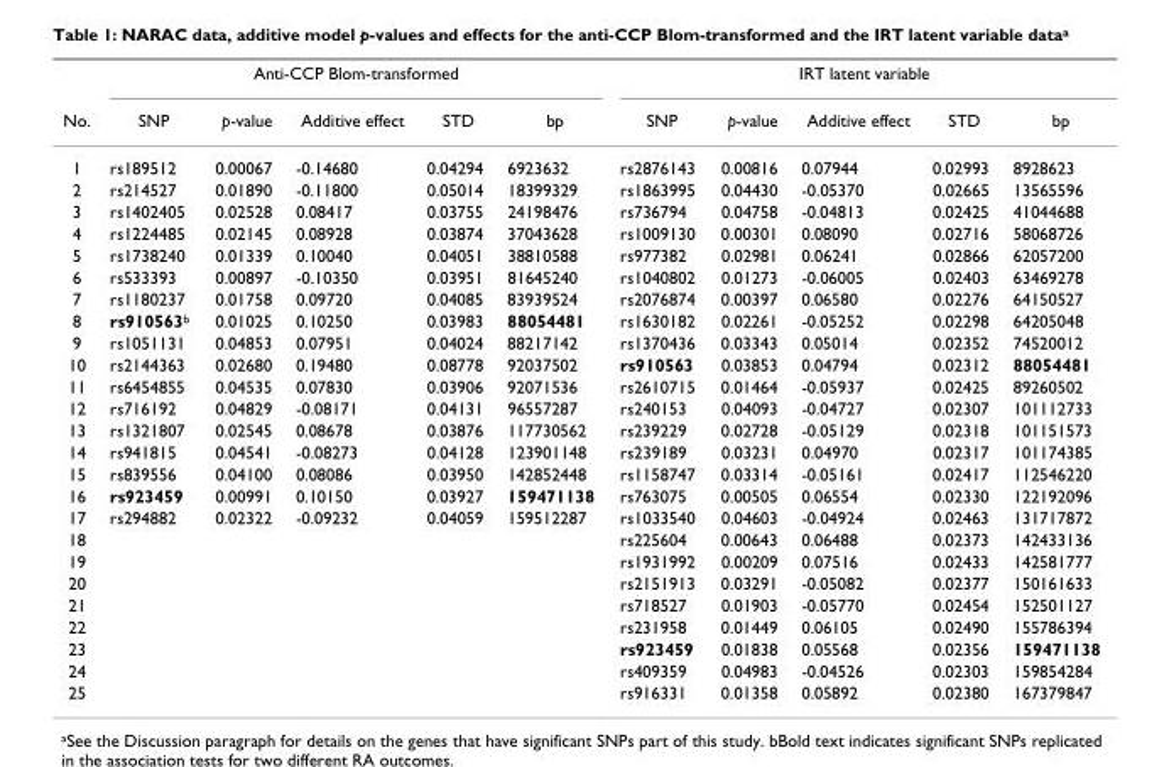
<table><thead><tr><td rowspan="2">No.</td><td colspan="5">Anti-CCP Blom-transformed</td><td colspan="5">IRT latent variable</td></tr><tr><td>SNP</td><td>p-value</td><td>Additive effect</td><td>STD</td><td>bp</td><td>SNP</td><td>p-value</td><td>Additive effect</td><td>STD</td><td>bp</td></tr></thead><tbody><tr><td>1</td><td>rs189512</td><td>0.00067</td><td>-0.14680</td><td>0.04294</td><td>6923632</td><td>rs2876143</td><td>0.00816</td><td>0.07944</td><td>0.02993</td><td>8928623</td></tr><tr><td>2</td><td>rs214527</td><td>0.01890</td><td>-0.11800</td><td>0.05014</td><td>18399329</td><td>rs1863995</td><td>0.04430</td><td>-0.05370</td><td>0.02665</td><td>13565596</td></tr><tr><td>3</td><td>rs1402405</td><td>0.02528</td><td>0.08417</td><td>0.03755</td><td>24198476</td><td>rs736794</td><td>0.04758</td><td>-0.04813</td><td>0.02425</td><td>41044688</td></tr><tr><td>4</td><td>rs1224485</td><td>0.02145</td><td>0.08928</td><td>0.03874</td><td>37043628</td><td>rs1009130</td><td>0.00301</td><td>0.08090</td><td>0.02716</td><td>58068726</td></tr><tr><td>5</td><td>rs1738240</td><td>0.01339</td><td>0.10040</td><td>0.04051</td><td>38810588</td><td>rs977382</td><td>0.02981</td><td>0.06241</td><td>0.02866</td><td>62057200</td></tr><tr><td>6</td><td>rs533393</td><td>0.00897</td><td>-0.10350</td><td>0.03951</td><td>81645240</td><td>rs1040802</td><td>0.01273</td><td>-0.06005</td><td>0.02403</td><td>63469278</td></tr><tr><td>7</td><td>rs1180237</td><td>0.01758</td><td>0.09720</td><td>0.04085</td><td>83939524</td><td>rs2076874</td><td>0.00397</td><td>0.06580</td><td>0.02276</td><td>64150527</td></tr><tr><td>8</td><td>rs910563<sup>b</sup></td><td>0.01025</td><td>0.10250</td><td>0.03983</td><td>88054481</td><td>rs1630182</td><td>0.02261</td><td>-0.05252</td><td>0.02298</td><td>64205048</td></tr><tr><td>9</td><td>rs1051131</td><td>0.04853</td><td>0.07951</td><td>0.04024</td><td>88217142</td><td>rs1370436</td><td>0.03343</td><td>0.05014</td><td>0.02352</td><td>74520012</td></tr><tr><td>10</td><td>rs2144363</td><td>0.02680</td><td>0.19480</td><td>0.08778</td><td>92037502</td><td>rs910563</td><td>0.03853</td><td>0.04794</td><td>0.02312</td><td>88054481</td></tr><tr><td>11</td><td>rs6454855</td><td>0.04535</td><td>0.07830</td><td>0.03906</td><td>92071536</td><td>rs2610715</td><td>0.01464</td><td>-0.05937</td><td>0.02425</td><td>89260502</td></tr><tr><td>12</td><td>rs716192</td><td>0.04829</td><td>-0.08171</td><td>0.04131</td><td>96557287</td><td>rs240153</td><td>0.04093</td><td>-0.04727</td><td>0.02307</td><td>101112733</td></tr><tr><td>13</td><td>rs1321807</td><td>0.02545</td><td>0.08678</td><td>0.03876</td><td>117730562</td><td>rs239229</td><td>0.02728</td><td>-0.05129</td><td>0.02318</td><td>101151573</td></tr><tr><td>14</td><td>rs941815</td><td>0.04541</td><td>-0.08273</td><td>0.04128</td><td>123901148</td><td>rs239189</td><td>0.03231</td><td>0.04970</td><td>0.02317</td><td>101174385</td></tr><tr><td>15</td><td>rs839556</td><td>0.04100</td><td>0.08086</td><td>0.03950</td><td>142852448</td><td>rs1158747</td><td>0.03314</td><td>-0.05161</td><td>0.02417</td><td>112546220</td></tr><tr><td>16</td><td>rs923459</td><td>0.00991</td><td>0.10150</td><td>0.03927</td><td>159471138</td><td>rs763075</td><td>0.00505</td><td>0.06554</td><td>0.02330</td><td>122192096</td></tr><tr><td>17</td><td>rs294882</td><td>0.02322</td><td>-0.09232</td><td>0.04059</td><td>159512287</td><td>rs1033540</td><td>0.04603</td><td>-0.04924</td><td>0.02463</td><td>131717872</td></tr><tr><td>18</td><td></td><td></td><td></td><td></td><td></td><td>rs225604</td><td>0.00643</td><td>0.06488</td><td>0.02373</td><td>142433136</td></tr><tr><td>19</td><td></td><td></td><td></td><td></td><td></td><td>rs1931992</td><td>0.00209</td><td>0.07516</td><td>0.02433</td><td>142581777</td></tr><tr><td>20</td><td></td><td></td><td></td><td></td><td></td><td>rs2151913</td><td>0.03291</td><td>-0.05082</td><td>0.02377</td><td>150161633</td></tr><tr><td>21</td><td></td><td></td><td></td><td></td><td></td><td>rs718527</td><td>0.01903</td><td>-0.05770</td><td>0.02454</td><td>152501127</td></tr><tr><td>22</td><td></td><td></td><td></td><td></td><td></td><td>rs231958</td><td>0.01449</td><td>0.06105</td><td>0.02490</td><td>155786394</td></tr><tr><td>23</td><td></td><td></td><td></td><td></td><td></td><td>rs923459</td><td>0.01838</td><td>0.05568</td><td>0.02356</td><td>159471138</td></tr><tr><td>24</td><td></td><td></td><td></td><td></td><td></td><td>rs409359</td><td>0.04983</td><td>-0.04526</td><td>0.02303</td><td>159854284</td></tr><tr><td>25</td><td></td><td></td><td></td><td></td><td></td><td>rs916331</td><td>0.01358</td><td>0.05892</td><td>0.02380</td><td>167379847</td></tr></tbody></table>